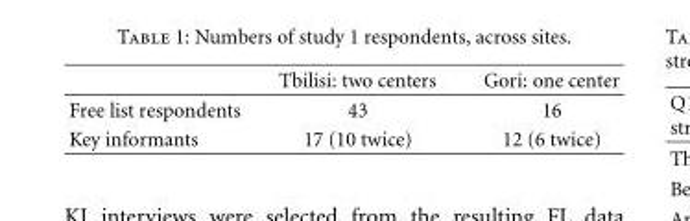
<table><thead><tr><td></td><td>Tbilisi: two centers</td><td>Gori: one center</td></tr></thead><tbody><tr><td>Free list respondents</td><td>43</td><td>16</td></tr><tr><td>Key informants</td><td>17 (10 twice)</td><td>12 (6 twice)</td></tr></tbody></table>